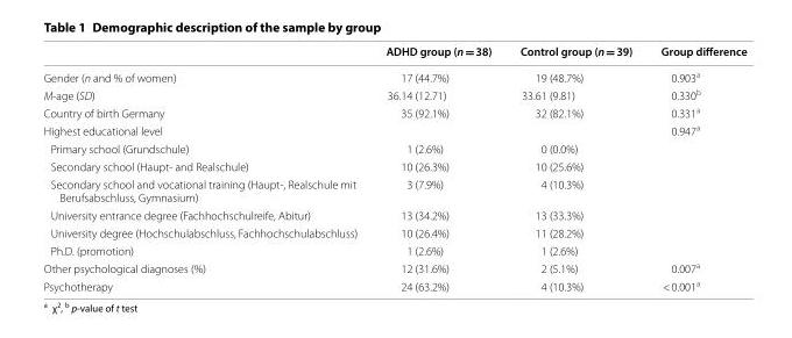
<table><thead><tr><td></td><td>ADHD group (n = 38)</td><td>Control group (n = 39)</td><td>Group difference</td></tr></thead><tbody><tr><td>Gender (n and % of women)</td><td>17 (44.7%)</td><td>19 (48.7%)</td><td>0.903<sup>a</sup></td></tr><tr><td>M‑age (SD)</td><td>36.14 (12.71)</td><td>33.61 (9.81)</td><td>0.330<sup>b</sup></td></tr><tr><td>Country of birth Germany</td><td>35 (92.1%)</td><td>32 (82.1%)</td><td>0.331<sup>a</sup></td></tr><tr><td colspan="3">Highest educational level</td><td>0.947<sup>a</sup></td></tr><tr><td>Primary school (Grundschule)</td><td>1 (2.6%)</td><td>0 (0.0%)</td><td></td></tr><tr><td>Secondary school (Haupt‑ and Realschule)</td><td>10 (26.3%)</td><td>10 (25.6%)</td><td></td></tr><tr><td>Secondary school and vocational training (Haupt‑, Realschule mit Berufsabschluss, Gymnasium)</td><td>3 (7.9%)</td><td>4 (10.3%)</td><td></td></tr><tr><td>University entrance degree (Fachhochschulreife, Abitur)</td><td>13 (34.2%)</td><td>13 (33.3%)</td><td></td></tr><tr><td>University degree (Hochschulabschluss, Fachhochschulabschluss)</td><td>10 (26.4%)</td><td>11 (28.2%)</td><td></td></tr><tr><td>Ph.D. (promotion)</td><td>1 (2.6%)</td><td>1 (2.6%)</td><td></td></tr><tr><td>Other psychological diagnoses (%)</td><td>12 (31.6%)</td><td>2 (5.1%)</td><td>0.007<sup>a</sup></td></tr><tr><td>Psychotherapy</td><td>24 (63.2%)</td><td>4 (10.3%)</td><td>&lt; 0.001<sup>a</sup></td></tr></tbody></table>